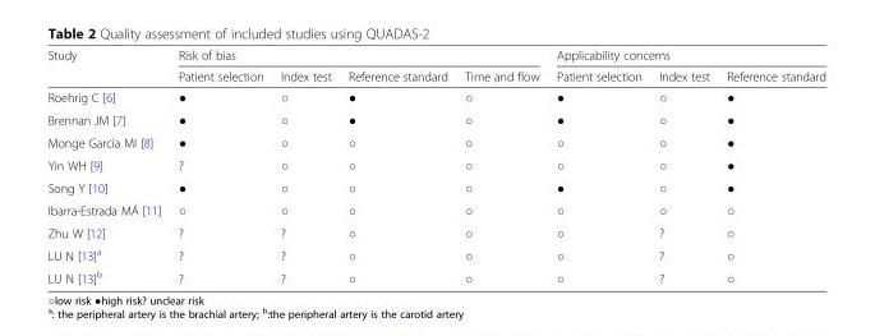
<table><thead><tr><td rowspan="2">Study</td><td colspan="4">Risk of bias</td><td colspan="3">Applicability concerns</td></tr><tr><td>Patient selection</td><td>Index test</td><td>Reference standard</td><td>Time and flow</td><td>Patient selection</td><td>Index test</td><td>Reference standard</td></tr></thead><tbody><tr><td>Roehrig C [6]</td><td>●</td><td>○</td><td>●</td><td>○</td><td>●</td><td>○</td><td>●</td></tr><tr><td>Brennan JM [7]</td><td>●</td><td>○</td><td>●</td><td>○</td><td>●</td><td>○</td><td>●</td></tr><tr><td>Monge García MI [8]</td><td>●</td><td>○</td><td>○</td><td>○</td><td>○</td><td>○</td><td>●</td></tr><tr><td>Yin WH [9]</td><td>?</td><td>○</td><td>○</td><td>○</td><td>○</td><td>○</td><td>●</td></tr><tr><td>Song Y [10]</td><td>●</td><td>○</td><td>○</td><td>○</td><td>●</td><td>○</td><td>●</td></tr><tr><td>Ibarra-Estrada MÁ [11]</td><td>○</td><td>○</td><td>○</td><td>○</td><td>○</td><td>○</td><td>○</td></tr><tr><td>Zhu W [12]</td><td>?</td><td>?</td><td>○</td><td>○</td><td>○</td><td>?</td><td>○</td></tr><tr><td>LU N [13]<sup>a</sup></td><td>?</td><td>?</td><td>○</td><td>○</td><td>○</td><td>?</td><td>○</td></tr><tr><td>LU N [13]<sup>b</sup></td><td>?</td><td>?</td><td>○</td><td>○</td><td>○</td><td>?</td><td>○</td></tr></tbody></table>